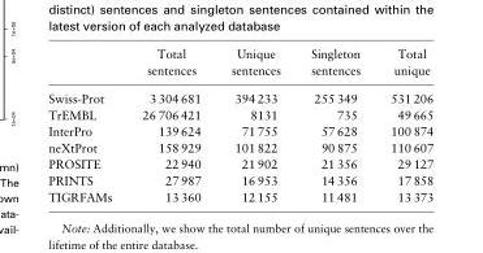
<table><thead><tr><td></td><td>Total sentences</td><td>Unique sentences</td><td>Singleton sentences</td><td>Total unique</td></tr></thead><tbody><tr><td>Swiss-Prot</td><td>3 304 681</td><td>394 233</td><td>255 349</td><td>531 206</td></tr><tr><td>TrEMBL</td><td>26 706 421</td><td>8131</td><td>735</td><td>49 665</td></tr><tr><td>InterPro</td><td>139 624</td><td>71 755</td><td>57 628</td><td>100 874</td></tr><tr><td>neXtProt</td><td>158 929</td><td>101 822</td><td>90 875</td><td>110 607</td></tr><tr><td>PROSITE</td><td>22 940</td><td>21 902</td><td>21 356</td><td>29 127</td></tr><tr><td>PRINTS</td><td>27 987</td><td>16 953</td><td>14 356</td><td>17 858</td></tr><tr><td>TIGRFAMs</td><td>13 360</td><td>12 155</td><td>11 481</td><td>13 373</td></tr></tbody></table>